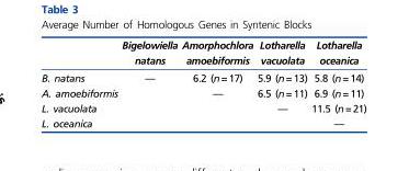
<table><thead><tr><td></td><td>Bigelowiella natans</td><td>Amorphochlora amoebiformis</td><td>Lotharella vacuolata</td><td>Lotharella oceanica</td></tr></thead><tbody><tr><td>B. natans</td><td>—</td><td>6.2 (n=17)</td><td>5.9 (n=13)</td><td>5.8 (n=14)</td></tr><tr><td>A. amoebiformis</td><td></td><td>—</td><td>6.5 (n=11)</td><td>6.9 (n=11)</td></tr><tr><td>L. vacuolata</td><td></td><td></td><td>—</td><td>11.5 (n=21)</td></tr><tr><td>L. oceanica</td><td></td><td></td><td></td><td>—</td></tr></tbody></table>